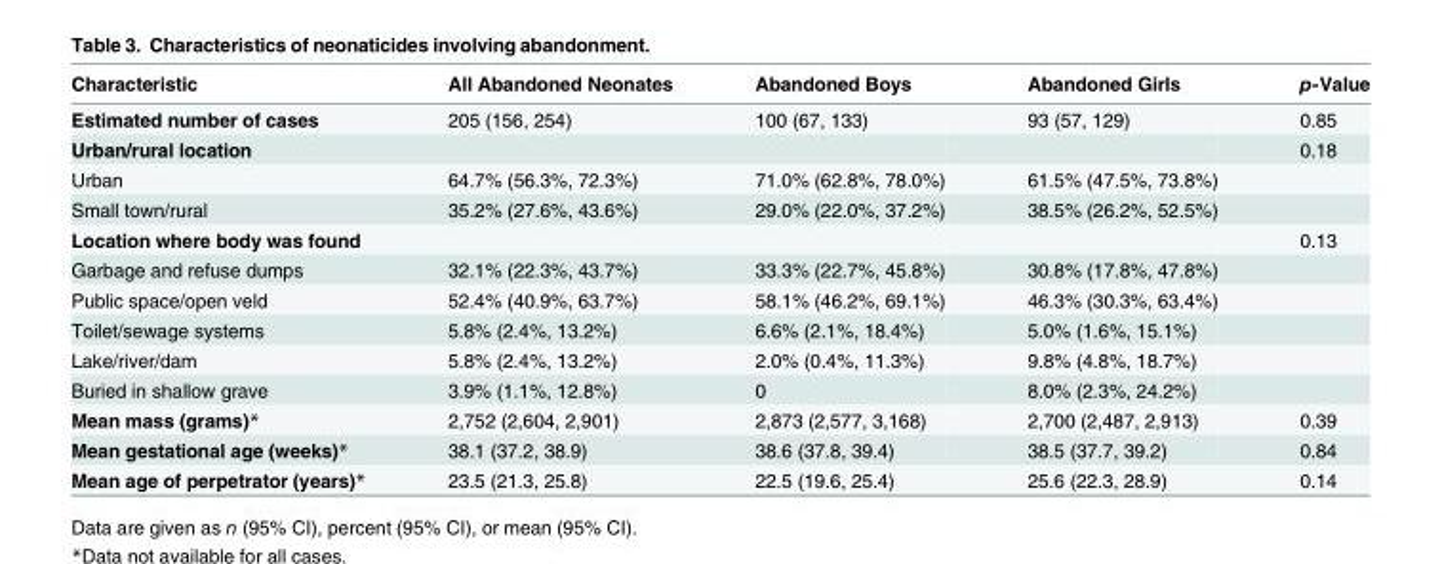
<table><thead><tr><td>Characteristic</td><td>All Abandoned Neonates</td><td>Abandoned Boys</td><td>Abandoned Girls</td><td>p-Value</td></tr></thead><tbody><tr><td>Estimated number of cases</td><td>205 (156, 254)</td><td>100 (67, 133)</td><td>93 (57, 129)</td><td>0.85</td></tr><tr><td>Urban/rural location</td><td></td><td></td><td></td><td>0.18</td></tr><tr><td>Urban</td><td>64.7% (56.3%, 72.3%)</td><td>71.0% (62.8%, 78.0%)</td><td>61.5% (47.5%, 73.8%)</td><td></td></tr><tr><td>Small town/rural</td><td>35.2% (27.6%, 43.6%)</td><td>29.0% (22.0%, 37.2%)</td><td>38.5% (26.2%, 52.5%)</td><td></td></tr><tr><td>Location where body was found</td><td></td><td></td><td></td><td>0.13</td></tr><tr><td>Garbage and refuse dumps</td><td>32.1% (22.3%, 43.7%)</td><td>33.3% (22.7%, 45.8%)</td><td>30.8% (17.8%, 47.8%)</td><td></td></tr><tr><td>Public space/open veld</td><td>52.4% (40.9%, 63.7%)</td><td>58.1% (46.2%, 69.1%)</td><td>46.3% (30.3%, 63.4%)</td><td></td></tr><tr><td>Toilet/sewage systems</td><td>5.8% (2.4%, 13.2%)</td><td>6.6% (2.1%, 18.4%)</td><td>5.0% (1.6%, 15.1%)</td><td></td></tr><tr><td>Lake/river/dam</td><td>5.8% (2.4%, 13.2%)</td><td>2.0% (0.4%, 11.3%)</td><td>9.8% (4.8%, 18.7%)</td><td></td></tr><tr><td>Buried in shallow grave</td><td>3.9% (1.1%, 12.8%)</td><td>0</td><td>8.0% (2.3%, 24.2%)</td><td></td></tr><tr><td>Mean mass (grams)*</td><td>2,752 (2,604, 2,901)</td><td>2,873 (2,577, 3,168)</td><td>2,700 (2,487, 2,913)</td><td>0.39</td></tr><tr><td>Mean gestational age (weeks)*</td><td>38.1 (37.2, 38.9)</td><td>38.6 (37.8, 39.4)</td><td>38.5 (37.7, 39.2)</td><td>0.84</td></tr><tr><td>Mean age of perpetrator (years)*</td><td>23.5 (21.3, 25.8)</td><td>22.5 (19.6, 25.4)</td><td>25.6 (22.3, 28.9)</td><td>0.14</td></tr></tbody></table>